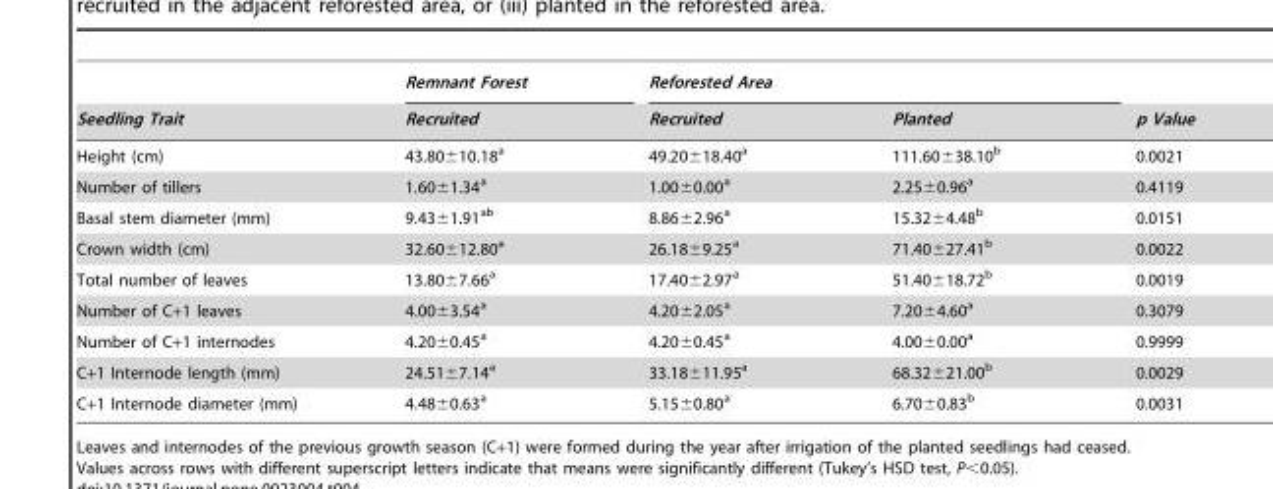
<table><thead><tr><td rowspan="2">Seedling Trait</td><td rowspan="2">Remnant Forest Recruited</td><td colspan="2">Reforested Area</td><td rowspan="2">p Value</td></tr><tr><td>Recruited</td><td>Planted</td></tr></thead><tbody><tr><td>Height (cm)</td><td>43.80±10.18<sup>a</sup></td><td>49.20±18.40<sup>a</sup></td><td>111.60±38.10<sup>b</sup></td><td>0.0021</td></tr><tr><td>Number of tillers</td><td>1.60±1.34<sup>a</sup></td><td>1.00±0.00<sup>a</sup></td><td>2.25±0.96<sup>a</sup></td><td>0.4119</td></tr><tr><td>Basal stem diameter (mm)</td><td>9.43±1.91<sup>ab</sup></td><td>8.86±2.96<sup>a</sup></td><td>15.32±4.48<sup>b</sup></td><td>0.0151</td></tr><tr><td>Crown width (cm)</td><td>32.60±12.80<sup>a</sup></td><td>26.18±9.25<sup>a</sup></td><td>71.40±27.41<sup>b</sup></td><td>0.0022</td></tr><tr><td>Total number of leaves</td><td>13.80±7.66<sup>a</sup></td><td>17.40±2.97<sup>a</sup></td><td>51.40±18.72<sup>b</sup></td><td>0.0019</td></tr><tr><td>Number of C+1 leaves</td><td>4.00±3.54<sup>a</sup></td><td>4.20±2.05<sup>a</sup></td><td>7.20±4.60<sup>a</sup></td><td>0.3079</td></tr><tr><td>Number of C+1 internodes</td><td>4.20±0.45<sup>a</sup></td><td>4.20±0.45<sup>a</sup></td><td>4.00±0.00<sup>a</sup></td><td>0.9999</td></tr><tr><td>C+1 Internode length (mm)</td><td>24.51±7.14<sup>a</sup></td><td>33.18±11.95<sup>a</sup></td><td>68.32±21.00<sup>b</sup></td><td>0.0029</td></tr><tr><td>C+1 Internode diameter (mm)</td><td>4.48±0.63<sup>a</sup></td><td>5.15±0.80<sup>a</sup></td><td>6.70±0.83<sup>b</sup></td><td>0.0031</td></tr></tbody></table>